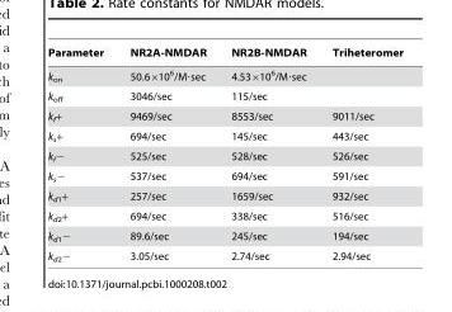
<table><thead><tr><td>Parameter</td><td>NR2A-NMDAR</td><td>NR2B-NMDAR</td><td>Triheteromer</td></tr></thead><tbody><tr><td>k<sub>on</sub></td><td>50.6×10<sup>6</sup>/M·sec</td><td>4.53×10<sup>6</sup>/M·sec</td><td></td></tr><tr><td>k<sub>off</sub></td><td>3046/sec</td><td>115/sec</td><td></td></tr><tr><td>k<sub>f</sub>+</td><td>9469/sec</td><td>8553/sec</td><td>9011/sec</td></tr><tr><td>k<sub>s</sub>+</td><td>694/sec</td><td>145/sec</td><td>443/sec</td></tr><tr><td>k<sub>f</sub>−</td><td>525/sec</td><td>528/sec</td><td>526/sec</td></tr><tr><td>k<sub>s</sub>−</td><td>537/sec</td><td>694/sec</td><td>591/sec</td></tr><tr><td>k<sub>d1</sub>+</td><td>257/sec</td><td>1659/sec</td><td>932/sec</td></tr><tr><td>k<sub>d2</sub>+</td><td>694/sec</td><td>338/sec</td><td>516/sec</td></tr><tr><td>k<sub>d1</sub>−</td><td>89.6/sec</td><td>245/sec</td><td>194/sec</td></tr><tr><td>k<sub>d2</sub>−</td><td>3.05/sec</td><td>2.74/sec</td><td>2.94/sec</td></tr></tbody></table>